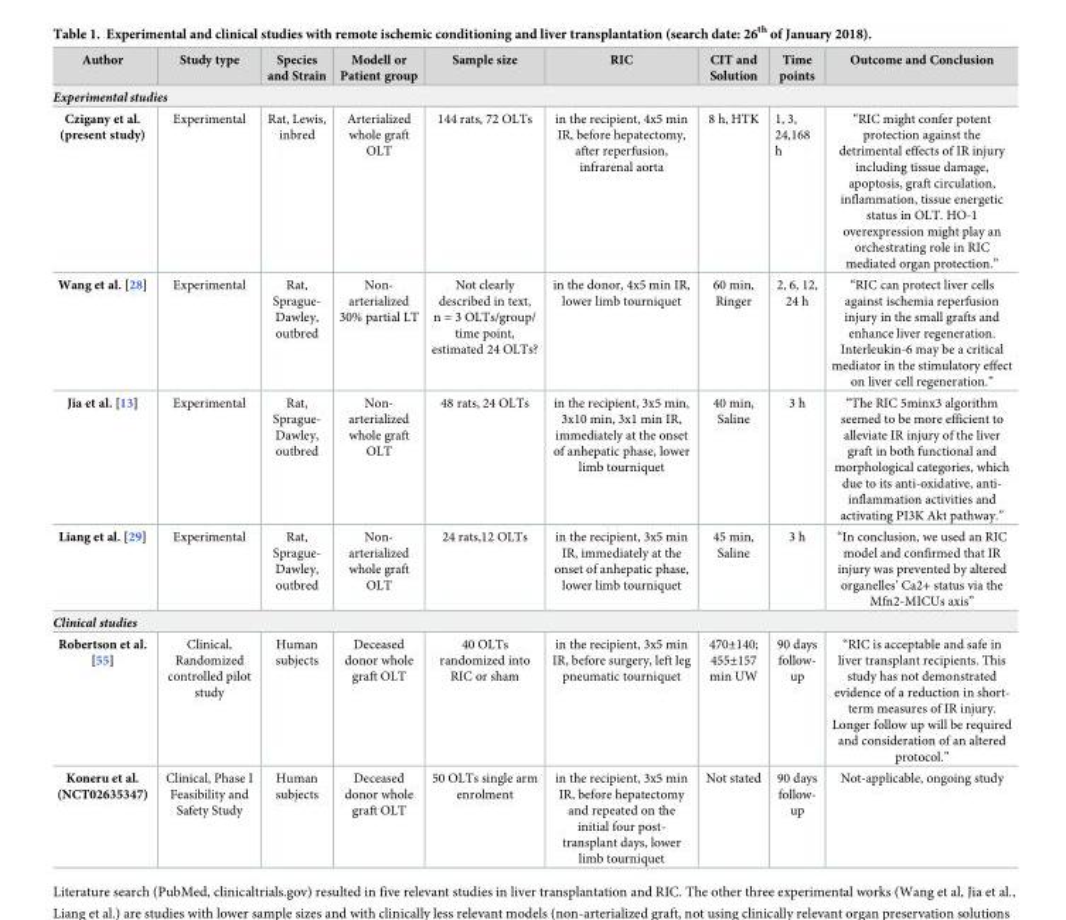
<table><thead><tr><td>Author</td><td>Study type</td><td>Species and Strain</td><td>Modell or Patient group</td><td>Sample size</td><td>RIC</td><td>CIT and Solution</td><td>Time points</td><td>Outcome and Conclusion</td></tr></thead><tbody><tr><td colspan="9">Experimental studies</td></tr><tr><td>Czigany et al. (present study)</td><td>Experimental</td><td>Rat, Lewis, inbred</td><td>Arterialized whole graft OLT</td><td>144 rats, 72 OLTs</td><td>in the recipient, 4x5 min IR, before hepatectomy, after reperfusion, infrarenal aorta</td><td>8 h, HTK</td><td>1, 3, 24,168 h</td><td>“RIC might confer potent protection against the detrimental effects of IR injury including tissue damage, apoptosis, graft circulation, inflammation, tissue energetic status in OLT. HO-1 overexpression might play an orchestrating role in RIC mediated organ protection.”</td></tr><tr><td>Wang et al. [28]</td><td>Experimental</td><td>Rat, Sprague- Dawley, outbred</td><td>Non- arterialized 30% partial LT</td><td>Not clearly described in text, n = 3 OLTs/group/ time point, estimated 24 OLTs?</td><td>in the donor, 4x5 min IR, lower limb tourniquet</td><td>60 min, Ringer</td><td>2, 6, 12, 24 h</td><td>“RIC can protect liver cells against ischemia reperfusion injury in the small grafts and enhance liver regeneration. Interleukin-6 may be a critical mediator in the stimulatory effect on liver cell regeneration.”</td></tr><tr><td>Jia et al. [13]</td><td>Experimental</td><td>Rat, Sprague- Dawley, outbred</td><td>Non- arterialized whole graft OLT</td><td>48 rats, 24 OLTs</td><td>in the recipient, 3x5 min, 3x10 min, 3x1 min IR, immediately at the onset of anhepatic phase, lower limb tourniquet</td><td>40 min, Saline</td><td>3 h</td><td>“The RIC 5minx3 algorithm seemed to be more efficient to alleviate IR injury of the liver graft in both functional and morphological categories, which due to its anti-oxidative, anti- inflammation activities and activating PI3K Akt pathway.”</td></tr><tr><td>Liang et al. [29]</td><td>Experimental</td><td>Rat, Sprague- Dawley, outbred</td><td>Non- arterialized whole graft OLT</td><td>24 rats,12 OLTs</td><td>in the recipient, 3x5 min IR, immediately at the onset of anhepatic phase, lower limb tourniquet</td><td>45 min, Saline</td><td>3 h</td><td>“In conclusion, we used an RIC model and confirmed that IR injury was prevented by altered organelles’ Ca2+ status via the Mfn2-MICUs axis”</td></tr><tr><td colspan="9">Clinical studies</td></tr><tr><td>Robertson et al. [55]</td><td>Clinical, Randomized controlled pilot study</td><td>Human subjects</td><td>Deceased donor whole graft OLT</td><td>40 OLTs randomized into RIC or sham</td><td>in the recipient, 3x5 min IR, before surgery, left leg pneumatic tourniquet</td><td>470±140; 455±157 min UW</td><td>90 days follow- up</td><td>“RIC is acceptable and safe in liver transplant recipients. This study has not demonstrated evidence of a reduction in short- term measures of IR injury. Longer follow up will be required and consideration of an altered protocol.”</td></tr><tr><td>Koneru et al. (NCT02635347)</td><td>Clinical, Phase I Feasibility and Safety Study</td><td>Human subjects</td><td>Deceased donor whole graft OLT</td><td>50 OLTs single arm enrolment</td><td>in the recipient, 3x5 min IR, before hepatectomy and repeated on the initial four post- transplant days, lower limb tourniquet</td><td>Not stated</td><td>90 days follow- up</td><td>Not-applicable, ongoing study</td></tr></tbody></table>